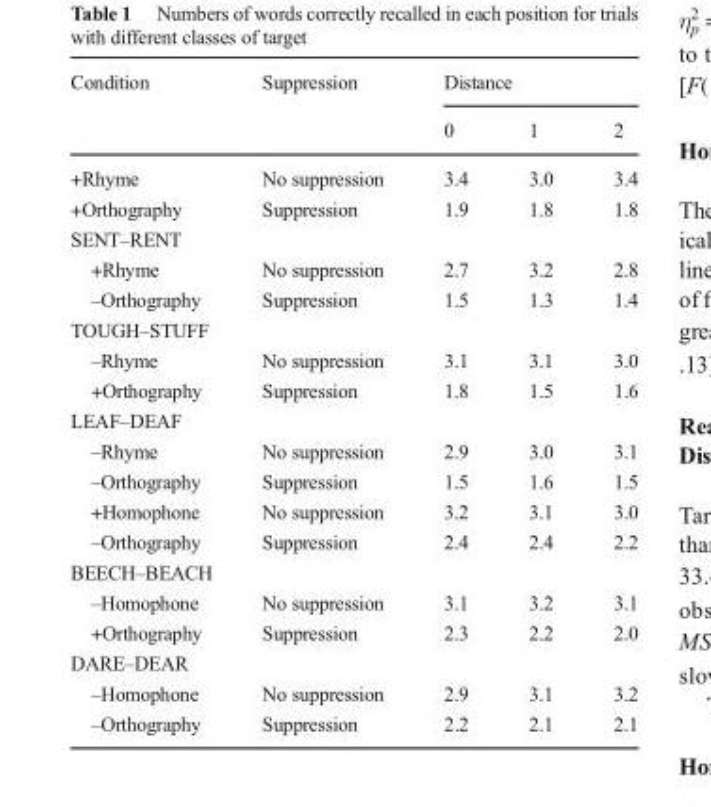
<table><thead><tr><td rowspan="2">Condition</td><td rowspan="2">Suppression</td><td colspan="3">Distance</td></tr><tr><td>0</td><td>1</td><td>2</td></tr></thead><tbody><tr><td>+Rhyme</td><td>No suppression</td><td>3.4</td><td>3.0</td><td>3.4</td></tr><tr><td>+Orthography</td><td>Suppression</td><td>1.9</td><td>1.8</td><td>1.8</td></tr><tr><td colspan="5">SENT–RENT</td></tr><tr><td>+Rhyme</td><td>No suppression</td><td>2.7</td><td>3.2</td><td>2.8</td></tr><tr><td>–Orthography</td><td>Suppression</td><td>1.5</td><td>1.3</td><td>1.4</td></tr><tr><td colspan="5">TOUGH–STUFF</td></tr><tr><td>–Rhyme</td><td>No suppression</td><td>3.1</td><td>3.1</td><td>3.0</td></tr><tr><td>+Orthography</td><td>Suppression</td><td>1.8</td><td>1.5</td><td>1.6</td></tr><tr><td colspan="5">LEAF–DEAF</td></tr><tr><td>–Rhyme</td><td>No suppression</td><td>2.9</td><td>3.0</td><td>3.1</td></tr><tr><td>–Orthography</td><td>Suppression</td><td>1.5</td><td>1.6</td><td>1.5</td></tr><tr><td>+Homophone</td><td>No suppression</td><td>3.2</td><td>3.1</td><td>3.0</td></tr><tr><td>–Orthography</td><td>Suppression</td><td>2.4</td><td>2.4</td><td>2.2</td></tr><tr><td colspan="5">BEECH–BEACH</td></tr><tr><td>–Homophone</td><td>No suppression</td><td>3.1</td><td>3.2</td><td>3.1</td></tr><tr><td>+Orthography</td><td>Suppression</td><td>2.3</td><td>2.2</td><td>2.0</td></tr><tr><td colspan="5">DARE–DEAR</td></tr><tr><td>–Homophone</td><td>No suppression</td><td>2.9</td><td>3.1</td><td>3.2</td></tr><tr><td>–Orthography</td><td>Suppression</td><td>2.2</td><td>2.1</td><td>2.1</td></tr></tbody></table>